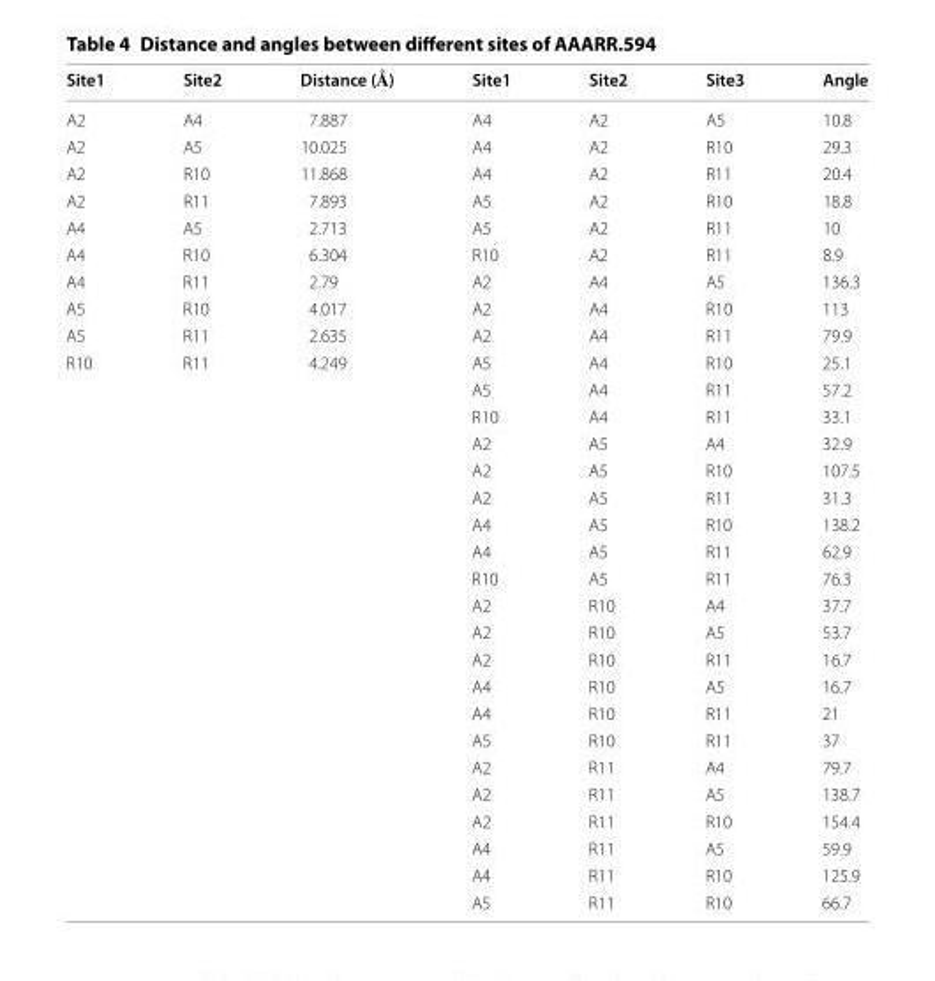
<table><thead><tr><td>Site1</td><td>Site2</td><td>Distance (Å)</td><td>Site1</td><td>Site2</td><td>Site3</td><td>Angle</td></tr></thead><tbody><tr><td>A2</td><td>A4</td><td>7.887</td><td>A4</td><td>A2</td><td>A5</td><td>10.8</td></tr><tr><td>A2</td><td>A5</td><td>10.025</td><td>A4</td><td>A2</td><td>R10</td><td>29.3</td></tr><tr><td>A2</td><td>R10</td><td>11.868</td><td>A4</td><td>A2</td><td>R11</td><td>20.4</td></tr><tr><td>A2</td><td>R11</td><td>7.893</td><td>A5</td><td>A2</td><td>R10</td><td>18.8</td></tr><tr><td>A4</td><td>A5</td><td>2.713</td><td>A5</td><td>A2</td><td>R11</td><td>10</td></tr><tr><td>A4</td><td>R10</td><td>6.304</td><td>R10</td><td>A2</td><td>R11</td><td>8.9</td></tr><tr><td>A4</td><td>R11</td><td>2.79</td><td>A2</td><td>A4</td><td>A5</td><td>136.3</td></tr><tr><td>A5</td><td>R10</td><td>4.017</td><td>A2</td><td>A4</td><td>R10</td><td>113</td></tr><tr><td>A5</td><td>R11</td><td>2.635</td><td>A2</td><td>A4</td><td>R11</td><td>79.9</td></tr><tr><td rowspan="21">R10</td><td>R11</td><td>4.249</td><td>A5</td><td>A4</td><td>R10</td><td>25.1</td></tr><tr><td></td><td></td><td>A5</td><td>A4</td><td>R11</td><td>57.2</td></tr><tr><td></td><td></td><td>R10</td><td>A4</td><td>R11</td><td>33.1</td></tr><tr><td></td><td></td><td>A2</td><td>A5</td><td>A4</td><td>32.9</td></tr><tr><td></td><td></td><td>A2</td><td>A5</td><td>R10</td><td>107.5</td></tr><tr><td></td><td></td><td>A2</td><td>A5</td><td>R11</td><td>31.3</td></tr><tr><td></td><td></td><td>A4</td><td>A5</td><td>R10</td><td>138.2</td></tr><tr><td></td><td></td><td>A4</td><td>A5</td><td>R11</td><td>62.9</td></tr><tr><td></td><td></td><td>R10</td><td>A5</td><td>R11</td><td>76.3</td></tr><tr><td></td><td></td><td>A2</td><td>R10</td><td>A4</td><td>37.7</td></tr><tr><td></td><td></td><td>A2</td><td>R10</td><td>A5</td><td>53.7</td></tr><tr><td></td><td></td><td>A2</td><td>R10</td><td>R11</td><td>16.7</td></tr><tr><td></td><td></td><td>A4</td><td>R10</td><td>A5</td><td>16.7</td></tr><tr><td></td><td></td><td>A4</td><td>R10</td><td>R11</td><td>21</td></tr><tr><td></td><td></td><td>A5</td><td>R10</td><td>R11</td><td>37</td></tr><tr><td></td><td></td><td>A2</td><td>R11</td><td>A4</td><td>79.7</td></tr><tr><td></td><td></td><td>A2</td><td>R11</td><td>A5</td><td>138.7</td></tr><tr><td></td><td></td><td>A2</td><td>R11</td><td>R10</td><td>154.4</td></tr><tr><td></td><td></td><td>A4</td><td>R11</td><td>A5</td><td>59.9</td></tr><tr><td></td><td></td><td>A4</td><td>R11</td><td>R10</td><td>125.9</td></tr><tr><td></td><td></td><td>A5</td><td>R11</td><td>R10</td><td>66.7</td></tr></tbody></table>